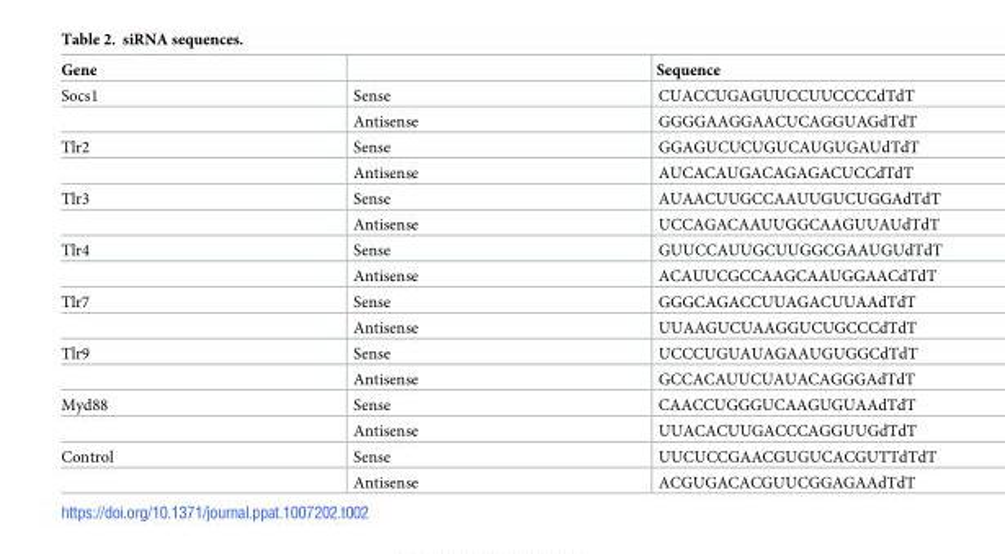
<table><thead><tr><td>Gene</td><td></td><td>Sequence</td></tr></thead><tbody><tr><td rowspan="2">Socs1</td><td>Sense</td><td>CUACCUGAGUUCCUUCCCCdTdT</td></tr><tr><td>Antisense</td><td>GGGGAAGGAACUCAGGUAGdTdT</td></tr><tr><td rowspan="2">Tlr2</td><td>Sense</td><td>GGAGUCUCUGUCAUGUGAUdTdT</td></tr><tr><td>Antisense</td><td>AUCACAUGACAGAGACUCCdTdT</td></tr><tr><td rowspan="2">Tlr3</td><td>Sense</td><td>AUAACUUGCCAAUUGUCUGGAdTdT</td></tr><tr><td>Antisense</td><td>UCCAGACAAUUGGCAAGUUAUdTdT</td></tr><tr><td rowspan="2">Tlr4</td><td>Sense</td><td>GUUCCAUUGCUUGGCGAAUGUdTdT</td></tr><tr><td>Antisense</td><td>ACAUUCGCCAAGCAAUGGAACdTdT</td></tr><tr><td rowspan="2">Tlr7</td><td>Sense</td><td>GGGCAGACCUUAGACUUAAdTdT</td></tr><tr><td>Antisense</td><td>UUAAGUCUAAGGUCUGCCCdTdT</td></tr><tr><td rowspan="2">Tlr9</td><td>Sense</td><td>UCCCUGUAUAGAAUGUGGCdTdT</td></tr><tr><td>Antisense</td><td>GCCACAUUCUAUACAGGGAdTdT</td></tr><tr><td rowspan="2">Myd88</td><td>Sense</td><td>CAACCUGGGUCAAGUGUAAdTdT</td></tr><tr><td>Antisense</td><td>UUACACUUGACCCAGGUUGdTdT</td></tr><tr><td rowspan="2">Control</td><td>Sense</td><td>UUCUCCGAACGUGUCACGUTTdTdT</td></tr><tr><td>Antisense</td><td>ACGUGACACGUUCGGAGAAdTdT</td></tr></tbody></table>